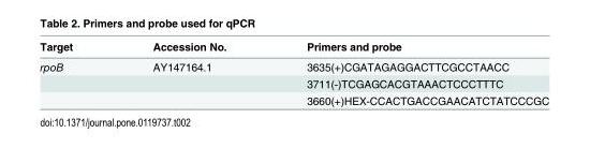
<table><thead><tr><td>Target</td><td>Accession No.</td><td>Primers and probe</td></tr></thead><tbody><tr><td rowspan="3">rpoB</td><td>AY147164.1</td><td>3635(+)CGATAGAGGACTTCGCCTAACC</td></tr><tr><td></td><td>3711(-)TCGAGCACGTAAACTCCCTTTC</td></tr><tr><td></td><td>3660(+)HEX-CCACTGACCGAACATCTATCCCGC</td></tr></tbody></table>